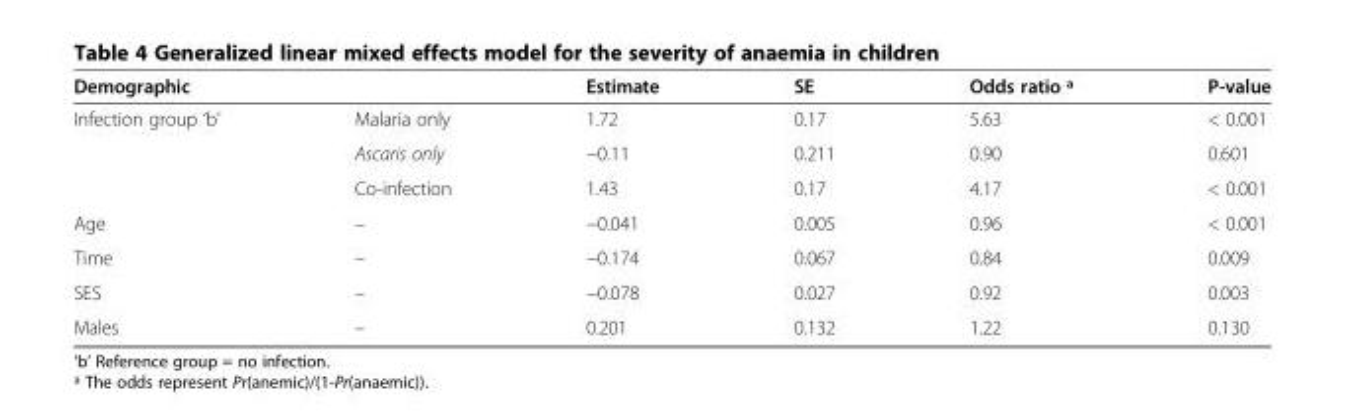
<table><thead><tr><td>Demographic</td><td></td><td>Estimate</td><td>SE</td><td>Odds ratio ª</td><td>P-value</td></tr></thead><tbody><tr><td rowspan="3">Infection group ‘b’</td><td>Malaria only</td><td>1.72</td><td>0.17</td><td>5.63</td><td>&lt; 0.001</td></tr><tr><td>Ascaris only</td><td>−0.11</td><td>0.211</td><td>0.90</td><td>0.601</td></tr><tr><td>Co-infection</td><td>1.43</td><td>0.17</td><td>4.17</td><td>&lt; 0.001</td></tr><tr><td>Age</td><td>–</td><td>−0.041</td><td>0.005</td><td>0.96</td><td>&lt; 0.001</td></tr><tr><td>Time</td><td>–</td><td>−0.174</td><td>0.067</td><td>0.84</td><td>0.009</td></tr><tr><td>SES</td><td>–</td><td>−0.078</td><td>0.027</td><td>0.92</td><td>0.003</td></tr><tr><td>Males</td><td>–</td><td>0.201</td><td>0.132</td><td>1.22</td><td>0.130</td></tr></tbody></table>